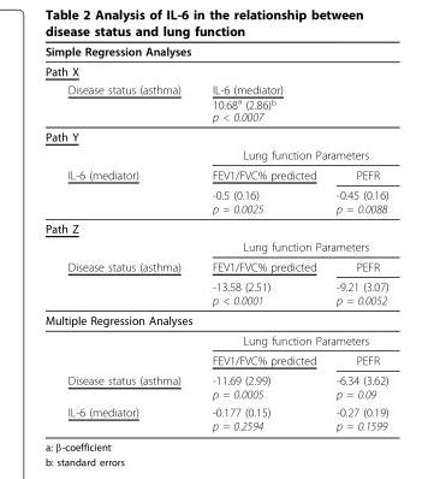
<table><thead><tr><td>Simple Regression Analyses</td><td></td><td></td></tr></thead><tbody><tr><td colspan="3">Path X</td></tr><tr><td>Disease status (asthma)</td><td>IL-6 (mediator) 10.68<sup>a</sup> (2.86)<sup>b</sup> p &lt; 0.0007</td><td></td></tr><tr><td colspan="3">Path Y</td></tr><tr><td></td><td colspan="2">Lung function Parameters</td></tr><tr><td rowspan="2">IL-6 (mediator)</td><td>FEV1/FVC% predicted</td><td>PEFR</td></tr><tr><td>-0.5 (0.16) p = 0.0025</td><td>-0.45 (0.16) p = 0.0088</td></tr><tr><td colspan="3">Path Z</td></tr><tr><td></td><td colspan="2">Lung function Parameters</td></tr><tr><td rowspan="2">Disease status (asthma)</td><td>FEV1/FVC% predicted</td><td>PEFR</td></tr><tr><td>-13.58 (2.51) p &lt; 0.0001</td><td>-9.21 (3.07) p = 0.0052</td></tr><tr><td colspan="3">Multiple Regression Analyses</td></tr><tr><td></td><td colspan="2">Lung function Parameters</td></tr><tr><td></td><td>FEV1/FVC% predicted</td><td>PEFR</td></tr><tr><td>Disease status (asthma)</td><td>-11.69 (2.99) p = 0.0005</td><td>-6.34 (3.62) p = 0.09</td></tr><tr><td>IL-6 (mediator)</td><td>-0.177 (0.15) p = 0.2594</td><td>-0.27 (0.19) p = 0.1599</td></tr></tbody></table>